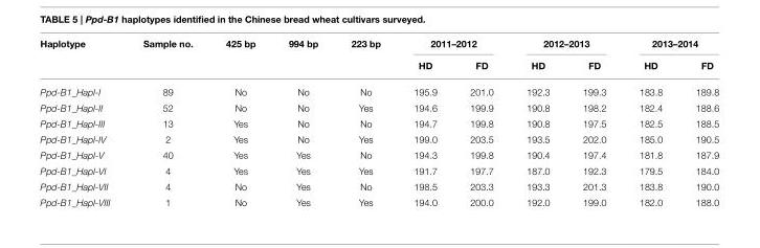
<table><thead><tr><td rowspan="2">Haplotype</td><td rowspan="2">Sample no.</td><td rowspan="2">425 bp</td><td rowspan="2">994 bp</td><td rowspan="2">223 bp</td><td colspan="2">2011–2012</td><td colspan="2">2012–2013</td><td colspan="2">2013–2014</td></tr><tr><td>HD</td><td>FD</td><td>HD</td><td>FD</td><td>HD</td><td>FD</td></tr></thead><tbody><tr><td>Ppd-B1_Hapl-I</td><td>89</td><td>No</td><td>No</td><td>No</td><td>195.9</td><td>201.0</td><td>192.3</td><td>199.3</td><td>183.8</td><td>189.8</td></tr><tr><td>Ppd-B1_Hapl-II</td><td>52</td><td>No</td><td>No</td><td>Yes</td><td>194.6</td><td>199.9</td><td>190.8</td><td>198.2</td><td>182.4</td><td>188.6</td></tr><tr><td>Ppd-B1_Hapl-III</td><td>13</td><td>Yes</td><td>No</td><td>No</td><td>194.7</td><td>199.8</td><td>190.8</td><td>197.5</td><td>182.5</td><td>188.5</td></tr><tr><td>Ppd-B1_Hapl-IV</td><td>2</td><td>Yes</td><td>No</td><td>Yes</td><td>199.0</td><td>203.5</td><td>193.5</td><td>202.0</td><td>185.0</td><td>190.5</td></tr><tr><td>Ppd-B1_Hapl-V</td><td>40</td><td>Yes</td><td>Yes</td><td>No</td><td>194.3</td><td>199.8</td><td>190.4</td><td>197.4</td><td>181.8</td><td>187.9</td></tr><tr><td>Ppd-B1_Hapl-VI</td><td>4</td><td>Yes</td><td>Yes</td><td>Yes</td><td>191.7</td><td>197.7</td><td>187.0</td><td>192.3</td><td>179.5</td><td>184.0</td></tr><tr><td>Ppd-B1_Hapl-VII</td><td>4</td><td>No</td><td>Yes</td><td>No</td><td>198.5</td><td>203.3</td><td>193.3</td><td>201.3</td><td>183.8</td><td>190.0</td></tr><tr><td>Ppd-B1_Hapl-VIII</td><td>1</td><td>No</td><td>Yes</td><td>Yes</td><td>194.0</td><td>200.0</td><td>192.0</td><td>199.0</td><td>182.0</td><td>188.0</td></tr></tbody></table>